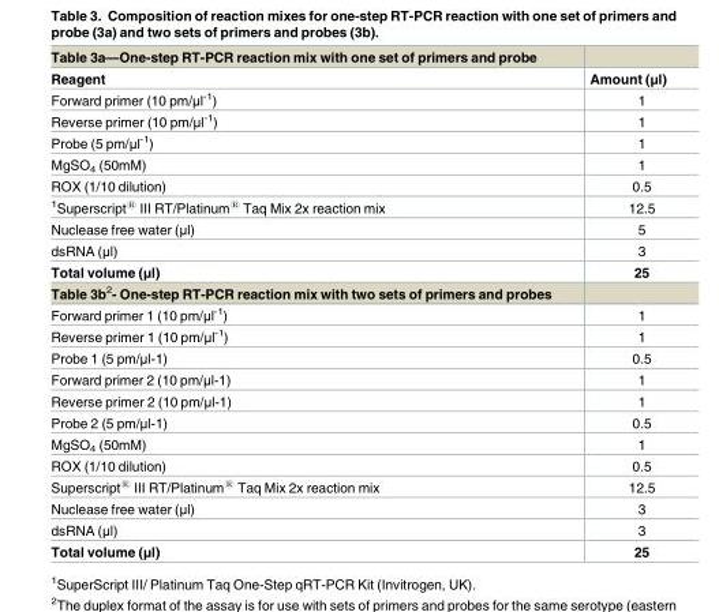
<table><tbody><tr><td colspan="2">Table 3a—One-step RT-PCR reaction mix with one set of primers and probe</td></tr><tr><td>Reagent</td><td>Amount (μl)</td></tr><tr><td>Forward primer (10 pm/μl<sup>-1</sup>)</td><td>1</td></tr><tr><td>Reverse primer (10 pm/μl<sup>-1</sup>)</td><td>1</td></tr><tr><td>Probe (5 pm/μl<sup>-1</sup>)</td><td>1</td></tr><tr><td>MgSO<sub>4</sub> (50mM)</td><td>1</td></tr><tr><td>ROX (1/10 dilution)</td><td>0.5</td></tr><tr><td><sup>1</sup>Superscript<sup>®</sup> III RT/Platinum<sup>®</sup> Taq Mix 2x reaction mix</td><td>12.5</td></tr><tr><td>Nuclease free water (μl)</td><td>5</td></tr><tr><td>dsRNA (μl)</td><td>3</td></tr><tr><td>Total volume (μl)</td><td>25</td></tr><tr><td colspan="2">Table 3b<sup>2</sup>- One-step RT-PCR reaction mix with two sets of primers and probes</td></tr><tr><td>Forward primer 1 (10 pm/μl<sup>-1</sup>)</td><td>1</td></tr><tr><td>Reverse primer 1 (10 pm/μl<sup>-1</sup>)</td><td>1</td></tr><tr><td>Probe 1 (5 pm/μl-1)</td><td>0.5</td></tr><tr><td>Forward primer 2 (10 pm/μl-1)</td><td>1</td></tr><tr><td>Reverse primer 2 (10 pm/μl-1)</td><td>1</td></tr><tr><td>Probe 2 (5 pm/μl-1)</td><td>0.5</td></tr><tr><td>MgSO<sub>4</sub> (50mM)</td><td>1</td></tr><tr><td>ROX (1/10 dilution)</td><td>0.5</td></tr><tr><td>Superscript<sup>®</sup> III RT/Platinum<sup>®</sup> Taq Mix 2x reaction mix</td><td>12.5</td></tr><tr><td>Nuclease free water (μl)</td><td>3</td></tr><tr><td>dsRNA (μl)</td><td>3</td></tr><tr><td>Total volume (μl)</td><td>25</td></tr></tbody></table>